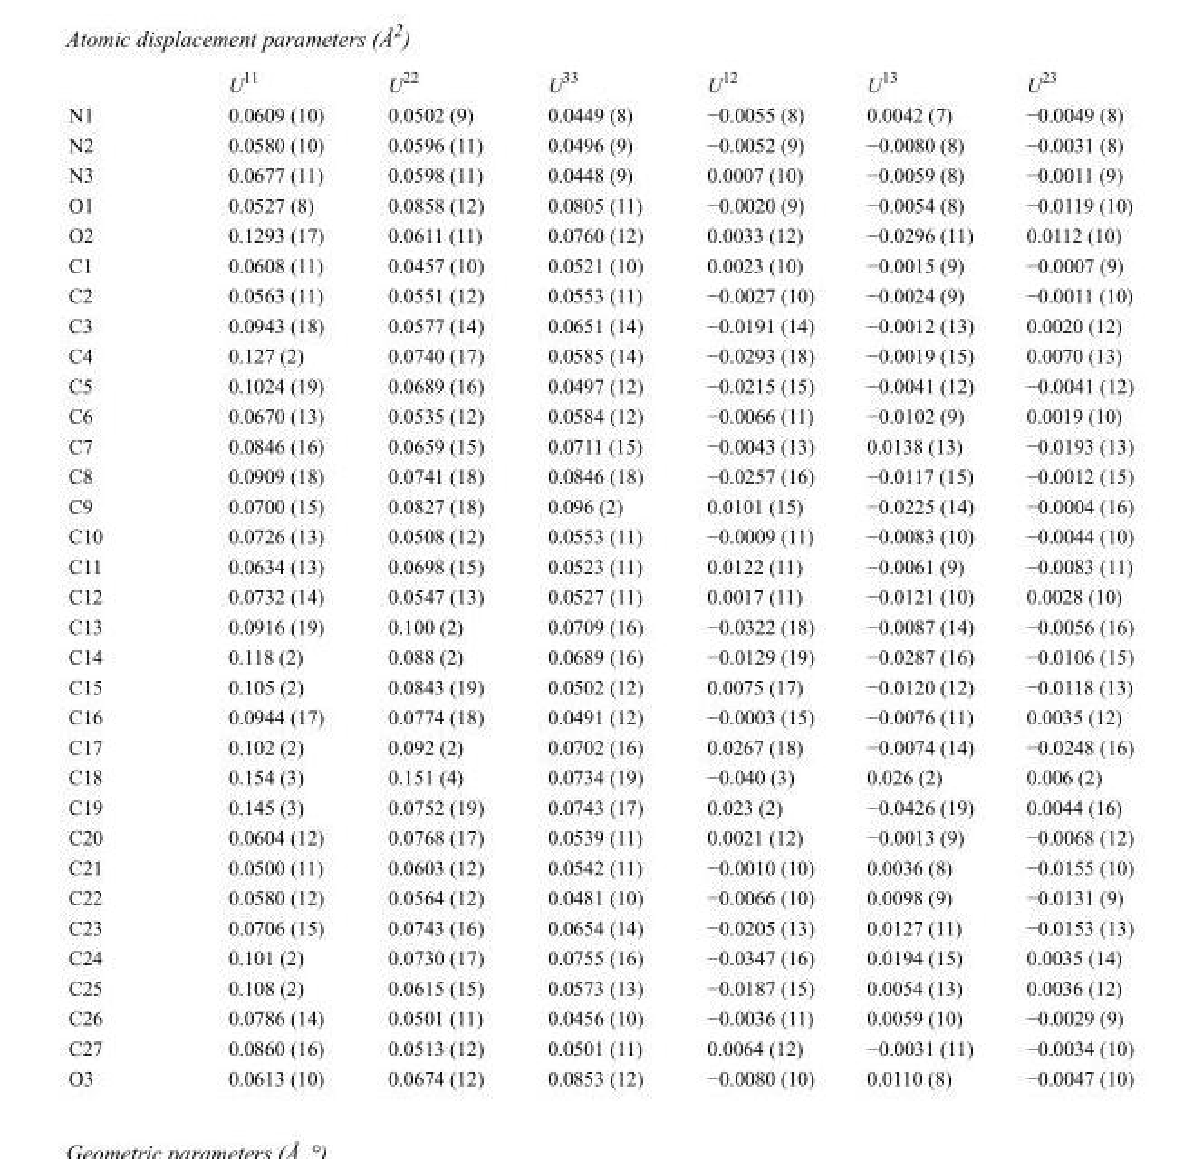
<table><thead><tr><td></td><td>U<sup>11</sup></td><td>U<sup>22</sup></td><td>U<sup>33</sup></td><td>U<sup>12</sup></td><td>U<sup>13</sup></td><td>U<sup>23</sup></td></tr></thead><tbody><tr><td>N1</td><td>0.0609 (10)</td><td>0.0502 (9)</td><td>0.0449 (8)</td><td>−0.0055 (8)</td><td>0.0042 (7)</td><td>−0.0049 (8)</td></tr><tr><td>N2</td><td>0.0580 (10)</td><td>0.0596 (11)</td><td>0.0496 (9)</td><td>−0.0052 (9)</td><td>−0.0080 (8)</td><td>−0.0031 (8)</td></tr><tr><td>N3</td><td>0.0677 (11)</td><td>0.0598 (11)</td><td>0.0448 (9)</td><td>0.0007 (10)</td><td>−0.0059 (8)</td><td>−0.0011 (9)</td></tr><tr><td>O1</td><td>0.0527 (8)</td><td>0.0858 (12)</td><td>0.0805 (11)</td><td>−0.0020 (9)</td><td>−0.0054 (8)</td><td>−0.0119 (10)</td></tr><tr><td>O2</td><td>0.1293 (17)</td><td>0.0611 (11)</td><td>0.0760 (12)</td><td>0.0033 (12)</td><td>−0.0296 (11)</td><td>0.0112 (10)</td></tr><tr><td>C1</td><td>0.0608 (11)</td><td>0.0457 (10)</td><td>0.0521 (10)</td><td>0.0023 (10)</td><td>−0.0015 (9)</td><td>−0.0007 (9)</td></tr><tr><td>C2</td><td>0.0563 (11)</td><td>0.0551 (12)</td><td>0.0553 (11)</td><td>−0.0027 (10)</td><td>−0.0024 (9)</td><td>−0.0011 (10)</td></tr><tr><td>C3</td><td>0.0943 (18)</td><td>0.0577 (14)</td><td>0.0651 (14)</td><td>−0.0191 (14)</td><td>−0.0012 (13)</td><td>0.0020 (12)</td></tr><tr><td>C4</td><td>0.127 (2)</td><td>0.0740 (17)</td><td>0.0585 (14)</td><td>−0.0293 (18)</td><td>−0.0019 (15)</td><td>0.0070 (13)</td></tr><tr><td>C5</td><td>0.1024 (19)</td><td>0.0689 (16)</td><td>0.0497 (12)</td><td>−0.0215 (15)</td><td>−0.0041 (12)</td><td>−0.0041 (12)</td></tr><tr><td>C6</td><td>0.0670 (13)</td><td>0.0535 (12)</td><td>0.0584 (12)</td><td>−0.0066 (11)</td><td>−0.0102 (9)</td><td>0.0019 (10)</td></tr><tr><td>C7</td><td>0.0846 (16)</td><td>0.0659 (15)</td><td>0.0711 (15)</td><td>−0.0043 (13)</td><td>0.0138 (13)</td><td>−0.0193 (13)</td></tr><tr><td>C8</td><td>0.0909 (18)</td><td>0.0741 (18)</td><td>0.0846 (18)</td><td>−0.0257 (16)</td><td>−0.0117 (15)</td><td>−0.0012 (15)</td></tr><tr><td>C9</td><td>0.0700 (15)</td><td>0.0827 (18)</td><td>0.096 (2)</td><td>0.0101 (15)</td><td>−0.0225 (14)</td><td>−0.0004 (16)</td></tr><tr><td>C10</td><td>0.0726 (13)</td><td>0.0508 (12)</td><td>0.0553 (11)</td><td>−0.0009 (11)</td><td>−0.0083 (10)</td><td>−0.0044 (10)</td></tr><tr><td>C11</td><td>0.0634 (13)</td><td>0.0698 (15)</td><td>0.0523 (11)</td><td>0.0122 (11)</td><td>−0.0061 (9)</td><td>−0.0083 (11)</td></tr><tr><td>C12</td><td>0.0732 (14)</td><td>0.0547 (13)</td><td>0.0527 (11)</td><td>0.0017 (11)</td><td>−0.0121 (10)</td><td>0.0028 (10)</td></tr><tr><td>C13</td><td>0.0916 (19)</td><td>0.100 (2)</td><td>0.0709 (16)</td><td>−0.0322 (18)</td><td>−0.0087 (14)</td><td>−0.0056 (16)</td></tr><tr><td>C14</td><td>0.118 (2)</td><td>0.088 (2)</td><td>0.0689 (16)</td><td>−0.0129 (19)</td><td>−0.0287 (16)</td><td>−0.0106 (15)</td></tr><tr><td>C15</td><td>0.105 (2)</td><td>0.0843 (19)</td><td>0.0502 (12)</td><td>0.0075 (17)</td><td>−0.0120 (12)</td><td>−0.0118 (13)</td></tr><tr><td>C16</td><td>0.0944 (17)</td><td>0.0774 (18)</td><td>0.0491 (12)</td><td>−0.0003 (15)</td><td>−0.0076 (11)</td><td>0.0035 (12)</td></tr><tr><td>C17</td><td>0.102 (2)</td><td>0.092 (2)</td><td>0.0702 (16)</td><td>0.0267 (18)</td><td>−0.0074 (14)</td><td>−0.0248 (16)</td></tr><tr><td>C18</td><td>0.154 (3)</td><td>0.151 (4)</td><td>0.0734 (19)</td><td>−0.040 (3)</td><td>0.026 (2)</td><td>0.006 (2)</td></tr><tr><td>C19</td><td>0.145 (3)</td><td>0.0752 (19)</td><td>0.0743 (17)</td><td>0.023 (2)</td><td>−0.0426 (19)</td><td>0.0044 (16)</td></tr><tr><td>C20</td><td>0.0604 (12)</td><td>0.0768 (17)</td><td>0.0539 (11)</td><td>0.0021 (12)</td><td>−0.0013 (9)</td><td>−0.0068 (12)</td></tr><tr><td>C21</td><td>0.0500 (11)</td><td>0.0603 (12)</td><td>0.0542 (11)</td><td>−0.0010 (10)</td><td>0.0036 (8)</td><td>−0.0155 (10)</td></tr><tr><td>C22</td><td>0.0580 (12)</td><td>0.0564 (12)</td><td>0.0481 (10)</td><td>−0.0066 (10)</td><td>0.0098 (9)</td><td>−0.0131 (9)</td></tr><tr><td>C23</td><td>0.0706 (15)</td><td>0.0743 (16)</td><td>0.0654 (14)</td><td>−0.0205 (13)</td><td>0.0127 (11)</td><td>−0.0153 (13)</td></tr><tr><td>C24</td><td>0.101 (2)</td><td>0.0730 (17)</td><td>0.0755 (16)</td><td>−0.0347 (16)</td><td>0.0194 (15)</td><td>0.0035 (14)</td></tr><tr><td>C25</td><td>0.108 (2)</td><td>0.0615 (15)</td><td>0.0573 (13)</td><td>−0.0187 (15)</td><td>0.0054 (13)</td><td>0.0036 (12)</td></tr><tr><td>C26</td><td>0.0786 (14)</td><td>0.0501 (11)</td><td>0.0456 (10)</td><td>−0.0036 (11)</td><td>0.0059 (10)</td><td>−0.0029 (9)</td></tr><tr><td>C27</td><td>0.0860 (16)</td><td>0.0513 (12)</td><td>0.0501 (11)</td><td>0.0064 (12)</td><td>−0.0031 (11)</td><td>−0.0034 (10)</td></tr><tr><td>O3</td><td>0.0613 (10)</td><td>0.0674 (12)</td><td>0.0853 (12)</td><td>−0.0080 (10)</td><td>0.0110 (8)</td><td>−0.0047 (10)</td></tr></tbody></table>